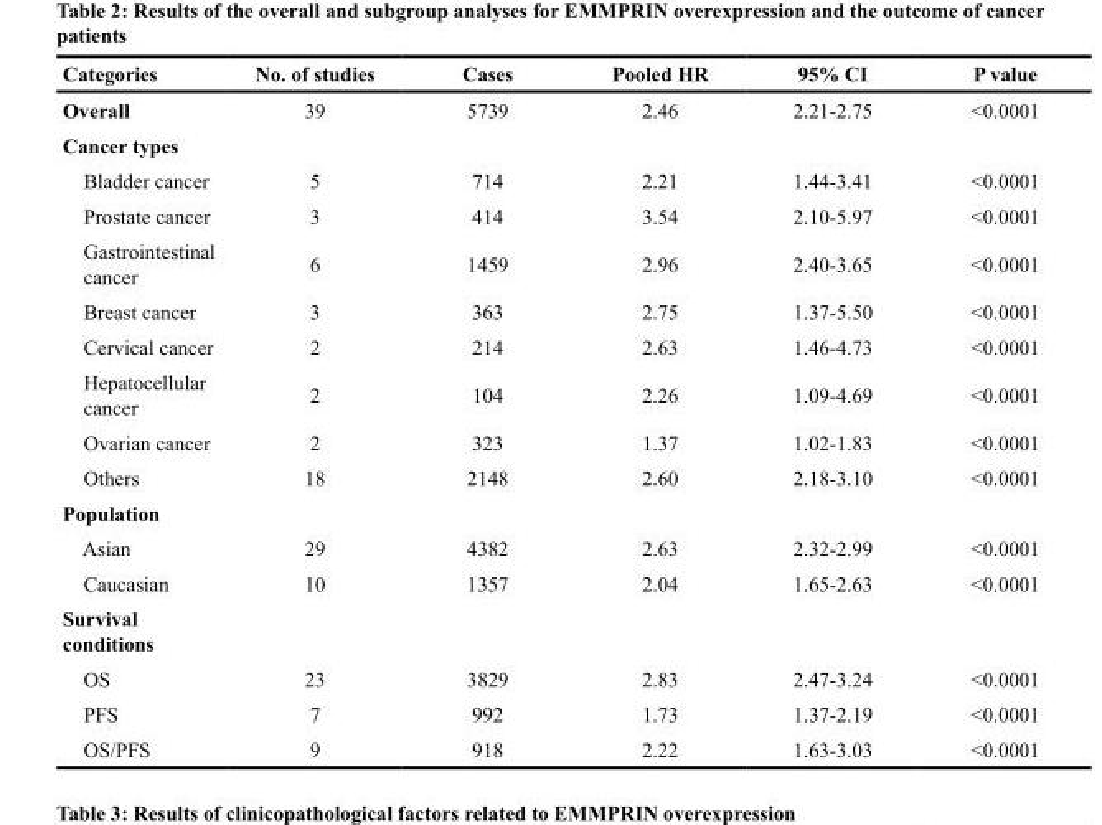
<table><thead><tr><td>Categories</td><td>No. of studies</td><td>Cases</td><td>Pooled HR</td><td>95% CI</td><td>P value</td></tr></thead><tbody><tr><td>Overall</td><td>39</td><td>5739</td><td>2.46</td><td>2.21-2.75</td><td>&lt;0.0001</td></tr><tr><td colspan="6">Cancer types</td></tr><tr><td>Bladder cancer</td><td>5</td><td>714</td><td>2.21</td><td>1.44-3.41</td><td>&lt;0.0001</td></tr><tr><td>Prostate cancer</td><td>3</td><td>414</td><td>3.54</td><td>2.10-5.97</td><td>&lt;0.0001</td></tr><tr><td>Gastrointestinal cancer</td><td>6</td><td>1459</td><td>2.96</td><td>2.40-3.65</td><td>&lt;0.0001</td></tr><tr><td>Breast cancer</td><td>3</td><td>363</td><td>2.75</td><td>1.37-5.50</td><td>&lt;0.0001</td></tr><tr><td>Cervical cancer</td><td>2</td><td>214</td><td>2.63</td><td>1.46-4.73</td><td>&lt;0.0001</td></tr><tr><td>Hepatocellular cancer</td><td>2</td><td>104</td><td>2.26</td><td>1.09-4.69</td><td>&lt;0.0001</td></tr><tr><td>Ovarian cancer</td><td>2</td><td>323</td><td>1.37</td><td>1.02-1.83</td><td>&lt;0.0001</td></tr><tr><td>Others</td><td>18</td><td>2148</td><td>2.60</td><td>2.18-3.10</td><td>&lt;0.0001</td></tr><tr><td colspan="6">Population</td></tr><tr><td>Asian</td><td>29</td><td>4382</td><td>2.63</td><td>2.32-2.99</td><td>&lt;0.0001</td></tr><tr><td>Caucasian</td><td>10</td><td>1357</td><td>2.04</td><td>1.65-2.63</td><td>&lt;0.0001</td></tr><tr><td colspan="6">Survival conditions</td></tr><tr><td>OS</td><td>23</td><td>3829</td><td>2.83</td><td>2.47-3.24</td><td>&lt;0.0001</td></tr><tr><td>PFS</td><td>7</td><td>992</td><td>1.73</td><td>1.37-2.19</td><td>&lt;0.0001</td></tr><tr><td>OS/PFS</td><td>9</td><td>918</td><td>2.22</td><td>1.63-3.03</td><td>&lt;0.0001</td></tr></tbody></table>